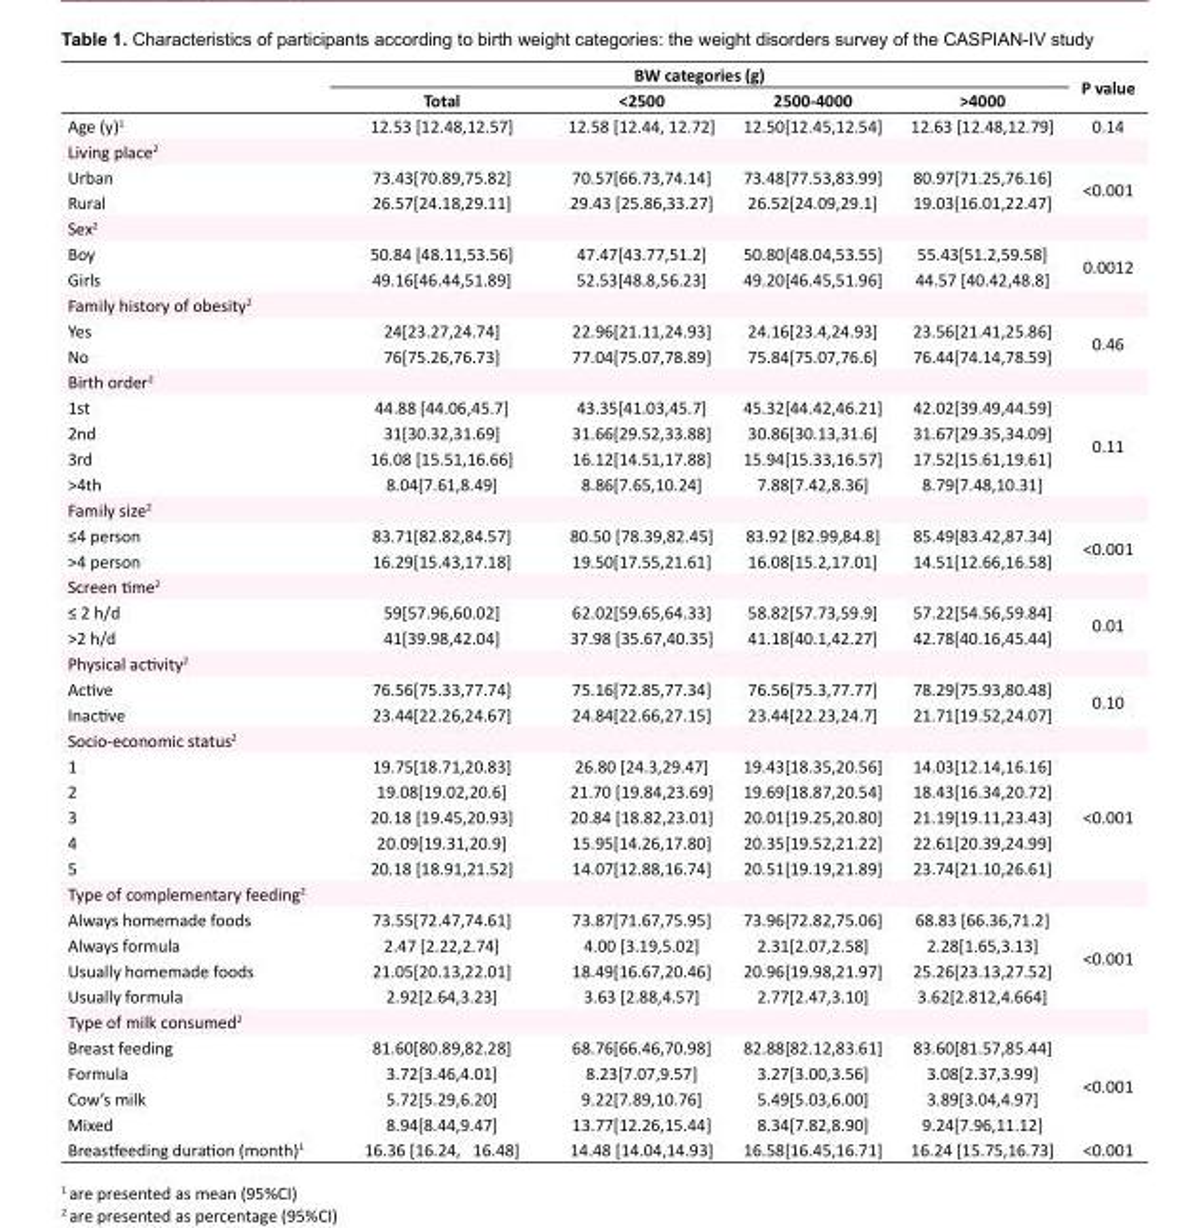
<table><thead><tr><td rowspan="2"></td><td colspan="4">BW categories (g)</td><td rowspan="2">P value</td></tr><tr><td>Total</td><td>&lt;2500</td><td>2500-4000</td><td>&gt;4000</td></tr></thead><tbody><tr><td>Age (y)1</td><td>12.53 [12.48,12.57]</td><td>12.58 [12.44, 12.72]</td><td>12.50[12.45,12.54]</td><td>12.63 [12.48,12.79]</td><td>0.14</td></tr><tr><td colspan="6">Living place<sup>2</sup></td></tr><tr><td>Urban</td><td>73.43[70.89,75.82]</td><td>70.57[66.73,74.14]</td><td>73.48[77.53,83.99]</td><td>80.97[71.25,76.16]</td><td rowspan="2">&lt;0.001</td></tr><tr><td>Rural</td><td>26.57[24.18,29.11]</td><td>29.43 [25.86,33.27]</td><td>26.52[24.09,29.1]</td><td>19.03[16.01,22.47]</td></tr><tr><td colspan="6">Sex<sup>2</sup></td></tr><tr><td>Boy</td><td>50.84 [48.11,53.56]</td><td>47.47[43.77,51.2]</td><td>50.80[48.04,53.55]</td><td>55.43[51.2,59.58]</td><td rowspan="2">0.0012</td></tr><tr><td>Girls</td><td>49.16[46.44,51.89]</td><td>52.53[48.8,56.23]</td><td>49.20[46.45,51.96]</td><td>44.57 [40.42,48.8]</td></tr><tr><td colspan="6">Family history of obesity<sup>2</sup></td></tr><tr><td>Yes</td><td>24[23.27,24.74]</td><td>22.96[21.11,24.93]</td><td>24.16[23.4,24.93]</td><td>23.56[21.41,25.86]</td><td rowspan="2">0.46</td></tr><tr><td>No</td><td>76[75.26,76.73]</td><td>77.04[75.07,78.89]</td><td>75.84[75.07,76.6]</td><td>76.44[74.14,78.59]</td></tr><tr><td colspan="6">Birth order<sup>2</sup></td></tr><tr><td>1st</td><td>44.88 [44.06,45.7]</td><td>43.35[41.03,45.7]</td><td>45.32[44.42,46.21]</td><td>42.02[39.49,44.59]</td><td rowspan="4">0.11</td></tr><tr><td>2nd</td><td>31[30.32,31.69]</td><td>31.66[29.52,33.88]</td><td>30.86[30.13,31.6]</td><td>31.67[29.35,34.09]</td></tr><tr><td>3rd</td><td>16.08 [15.51,16.66]</td><td>16.12[14.51,17.88]</td><td>15.94[15.33,16.57]</td><td>17.52[15.61,19.61]</td></tr><tr><td>&gt;4th</td><td>8.04[7.61,8.49]</td><td>8.86[7.65,10.24]</td><td>7.88[7.42,8.36]</td><td>8.79[7.48,10.31]</td></tr><tr><td colspan="6">Family size<sup>2</sup></td></tr><tr><td>≤4 person</td><td>83.71[82.82,84.57]</td><td>80.50 [78.39,82.45]</td><td>83.92 [82.99,84.8]</td><td>85.49[83.42,87.34]</td><td rowspan="2">&lt;0.001</td></tr><tr><td>&gt;4 person</td><td>16.29[15.43,17.18]</td><td>19.50[17.55,21.61]</td><td>16.08[15.2,17.01]</td><td>14.51[12.66,16.58]</td></tr><tr><td colspan="6">Screen time<sup>2</sup></td></tr><tr><td>≤ 2 h/d</td><td>59[57.96,60.02]</td><td>62.02[59.65,64.33]</td><td>58.82[57.73,59.9]</td><td>57.22[54.56,59.84]</td><td rowspan="2">0.01</td></tr><tr><td>&gt;2 h/d</td><td>41[39.98,42.04]</td><td>37.98 [35.67,40.35]</td><td>41.18[40.1,42.27]</td><td>42.78[40.16,45.44]</td></tr><tr><td colspan="6">Physical activity<sup>2</sup></td></tr><tr><td>Active</td><td>76.56[75.33,77.74]</td><td>75.16[72.85,77.34]</td><td>76.56[75.3,77.77]</td><td>78.29[75.93,80.48]</td><td rowspan="2">0.10</td></tr><tr><td>Inactive</td><td>23.44[22.26,24.67]</td><td>24.84[22.66,27.15]</td><td>23.44[22.23,24.7]</td><td>21.71[19.52,24.07]</td></tr><tr><td colspan="6">Socio-economic status<sup>2</sup></td></tr><tr><td>1</td><td>19.75[18.71,20.83]</td><td>26.80 [24.3,29.47]</td><td>19.43[18.35,20.56]</td><td>14.03[12.14,16.16]</td><td rowspan="5">&lt;0.001</td></tr><tr><td>2</td><td>19.08[19.02,20.6]</td><td>21.70 [19.84,23.69]</td><td>19.69[18.87,20.54]</td><td>18.43[16.34,20.72]</td></tr><tr><td>3</td><td>20.18 [19.45,20.93]</td><td>20.84 [18.82,23.01]</td><td>20.01[19.25,20.80]</td><td>21.19[19.11,23.43]</td></tr><tr><td>4</td><td>20.09[19.31,20.9]</td><td>15.95[14.26,17.80]</td><td>20.35[19.52,21.22]</td><td>22.61[20.39,24.99]</td></tr><tr><td>5</td><td>20.18 [18.91,21.52]</td><td>14.07[12.88,16.74]</td><td>20.51[19.19,21.89]</td><td>23.74[21.10,26.61]</td></tr><tr><td colspan="6">Type of complementary feeding<sup>2</sup></td></tr><tr><td>Always homemade foods</td><td>73.55[72.47,74.61]</td><td>73.87[71.67,75.95]</td><td>73.96[72.82,75.06]</td><td>68.83 [66.36,71.2]</td><td rowspan="4">&lt;0.001</td></tr><tr><td>Always formula</td><td>2.47 [2.22,2.74]</td><td>4.00 [3.19,5.02]</td><td>2.31[2.07,2.58]</td><td>2.28[1.65,3.13]</td></tr><tr><td>Usually homemade foods</td><td>21.05[20.13,22.01]</td><td>18.49[16.67,20.46]</td><td>20.96[19.98,21.97]</td><td>25.26[23.13,27.52]</td></tr><tr><td>Usually formula</td><td>2.92[2.64,3.23]</td><td>3.63 [2.88,4.57]</td><td>2.77[2.47,3.10]</td><td>3.62[2.812,4.664]</td></tr><tr><td colspan="6">Type of milk consumed<sup>2</sup></td></tr><tr><td>Breast feeding</td><td>81.60[80.89,82.28]</td><td>68.76[66.46,70.98]</td><td>82.88[82.12,83.61]</td><td>83.60[81.57,85.44]</td><td rowspan="4">&lt;0.001</td></tr><tr><td>Formula</td><td>3.72[3.46,4.01]</td><td>8.23[7.07,9.57]</td><td>3.27[3.00,3.56]</td><td>3.08[2.37,3.99]</td></tr><tr><td>Cow’s milk</td><td>5.72[5.29,6.20]</td><td>9.22[7.89,10.76]</td><td>5.49[5.03,6.00]</td><td>3.89[3.04,4.97]</td></tr><tr><td>Mixed</td><td>8.94[8.44,9.47]</td><td>13.77[12.26,15.44]</td><td>8.34[7.82,8.90]</td><td>9.24[7.96,11.12]</td></tr><tr><td>Breastfeeding duration (month)<sup>1</sup></td><td>16.36 [16.24, 16.48]</td><td>14.48 [14.04,14.93]</td><td>16.58[16.45,16.71]</td><td>16.24 [15.75,16.73]</td><td>&lt;0.001</td></tr></tbody></table>